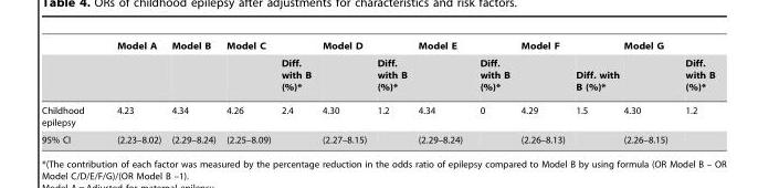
<table><thead><tr><td rowspan="2"></td><td rowspan="2">Model A</td><td rowspan="2">Model B</td><td rowspan="2">Model C</td><td rowspan="2">Diff. with B (%)*</td><td rowspan="2">Model D</td><td rowspan="2">Diff. with B (%)*</td><td rowspan="2">Model E</td><td rowspan="2">Diff. with B (%)*</td><td rowspan="2">Model F</td><td rowspan="2">Diff. with B (%)*</td><td rowspan="2">Model G</td><td rowspan="2">Diff. with B (%)*</td></tr><tr></tr></thead><tbody><tr><td>Childhood epilepsy</td><td>4.23</td><td>4.34</td><td>4.26</td><td>2.4</td><td>4.30</td><td>1.2</td><td>4.34</td><td>0</td><td>4.29</td><td>1.5</td><td>4.30</td><td>1.2</td></tr><tr><td>95% CI</td><td>(2.23–8.02)</td><td>(2.29–8.24)</td><td>(2.25–8.09)</td><td></td><td>(2.27–8.15)</td><td></td><td>(2.29–8.24)</td><td></td><td>(2.26–8.13)</td><td></td><td>(2.26–8.15)</td><td></td></tr></tbody></table>